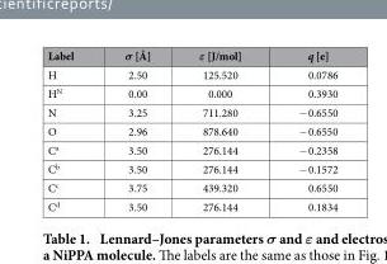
<table><thead><tr><td>Label</td><td>σ [Å]</td><td>ε [J/mol]</td><td>q [e]</td></tr></thead><tbody><tr><td>H</td><td>2.50</td><td>125.520</td><td>0.0786</td></tr><tr><td>H<sup>N</sup></td><td>0.00</td><td>0.000</td><td>0.3930</td></tr><tr><td>N</td><td>3.25</td><td>711.280</td><td>− 0.6550</td></tr><tr><td>O</td><td>2.96</td><td>878.640</td><td>− 0.6550</td></tr><tr><td>C<sup>a</sup></td><td>3.50</td><td>276.144</td><td>− 0.2358</td></tr><tr><td>C<sup>b</sup></td><td>3.50</td><td>276.144</td><td>− 0.1572</td></tr><tr><td>C<sup>c</sup></td><td>3.75</td><td>439.320</td><td>0.6550</td></tr><tr><td>C<sup>d</sup></td><td>3.50</td><td>276.144</td><td>0.1834</td></tr></tbody></table>